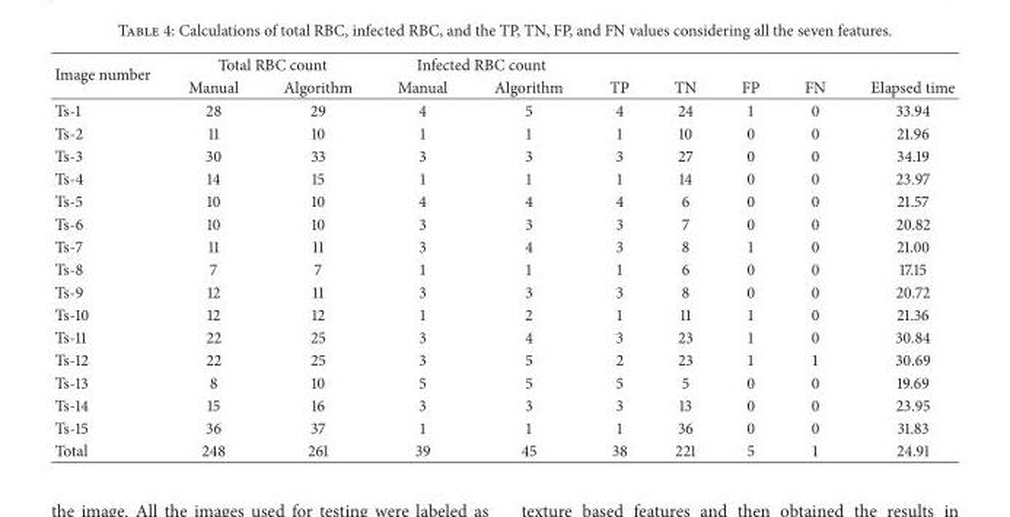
<table><thead><tr><td rowspan="2">Image number</td><td colspan="2">Total RBC count</td><td colspan="2">Infected RBC count</td><td rowspan="2">TP</td><td rowspan="2">TN</td><td rowspan="2">FP</td><td rowspan="2">FN</td><td rowspan="2">Elapsed time</td></tr><tr><td>Manual</td><td>Algorithm</td><td>Manual</td><td>Algorithm</td></tr></thead><tbody><tr><td>Ts-1</td><td>28</td><td>29</td><td>4</td><td>5</td><td>4</td><td>24</td><td>1</td><td>0</td><td>33.94</td></tr><tr><td>Ts-2</td><td>11</td><td>10</td><td>1</td><td>1</td><td>1</td><td>10</td><td>0</td><td>0</td><td>21.96</td></tr><tr><td>Ts-3</td><td>30</td><td>33</td><td>3</td><td>3</td><td>3</td><td>27</td><td>0</td><td>0</td><td>34.19</td></tr><tr><td>Ts-4</td><td>14</td><td>15</td><td>1</td><td>1</td><td>1</td><td>14</td><td>0</td><td>0</td><td>23.97</td></tr><tr><td>Ts-5</td><td>10</td><td>10</td><td>4</td><td>4</td><td>4</td><td>6</td><td>0</td><td>0</td><td>21.57</td></tr><tr><td>Ts-6</td><td>10</td><td>10</td><td>3</td><td>3</td><td>3</td><td>7</td><td>0</td><td>0</td><td>20.82</td></tr><tr><td>Ts-7</td><td>11</td><td>11</td><td>3</td><td>4</td><td>3</td><td>8</td><td>1</td><td>0</td><td>21.00</td></tr><tr><td>Ts-8</td><td>7</td><td>7</td><td>1</td><td>1</td><td>1</td><td>6</td><td>0</td><td>0</td><td>17.15</td></tr><tr><td>Ts-9</td><td>12</td><td>11</td><td>3</td><td>3</td><td>3</td><td>8</td><td>0</td><td>0</td><td>20.72</td></tr><tr><td>Ts-10</td><td>12</td><td>12</td><td>1</td><td>2</td><td>1</td><td>11</td><td>1</td><td>0</td><td>21.36</td></tr><tr><td>Ts-11</td><td>22</td><td>25</td><td>3</td><td>4</td><td>3</td><td>23</td><td>1</td><td>0</td><td>30.84</td></tr><tr><td>Ts-12</td><td>22</td><td>25</td><td>3</td><td>5</td><td>2</td><td>23</td><td>1</td><td>1</td><td>30.69</td></tr><tr><td>Ts-13</td><td>8</td><td>10</td><td>5</td><td>5</td><td>5</td><td>5</td><td>0</td><td>0</td><td>19.69</td></tr><tr><td>Ts-14</td><td>15</td><td>16</td><td>3</td><td>3</td><td>3</td><td>13</td><td>0</td><td>0</td><td>23.95</td></tr><tr><td>Ts-15</td><td>36</td><td>37</td><td>1</td><td>1</td><td>1</td><td>36</td><td>0</td><td>0</td><td>31.83</td></tr><tr><td>Total</td><td>248</td><td>261</td><td>39</td><td>45</td><td>38</td><td>221</td><td>5</td><td>1</td><td>24.91</td></tr></tbody></table>